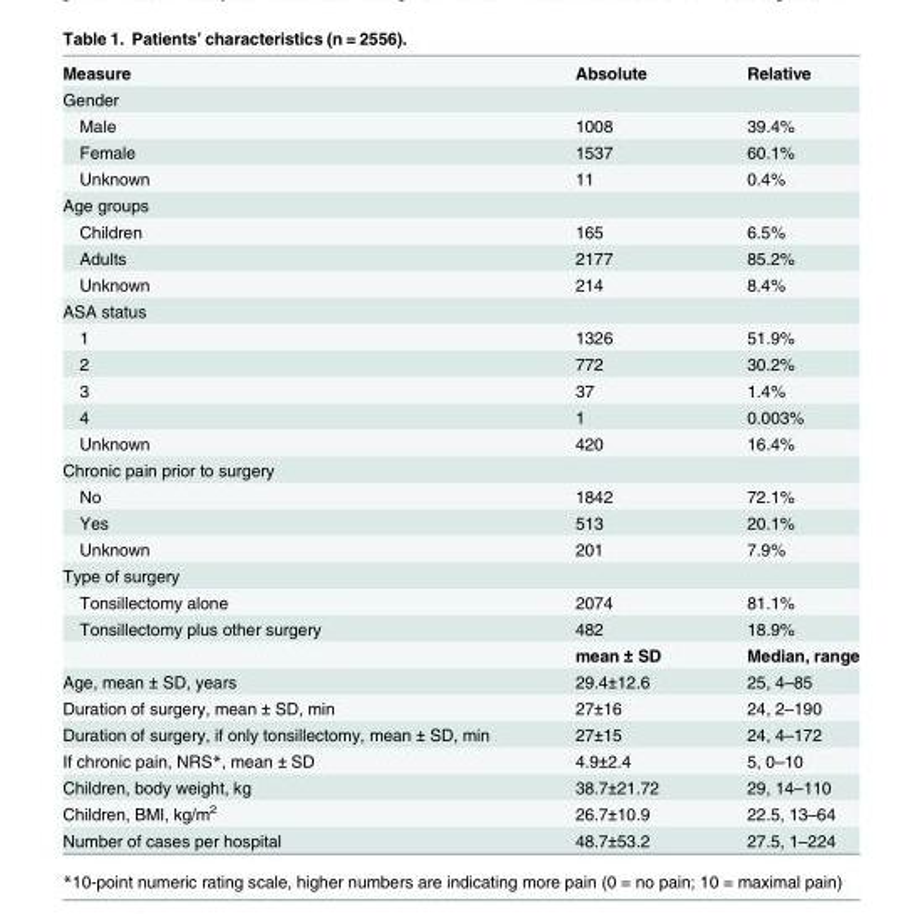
<table><tbody><tr><td>Measure</td><td>Absolute</td><td>Relative</td></tr><tr><td colspan="3">Gender</td></tr><tr><td>Male</td><td>1008</td><td>39.4%</td></tr><tr><td>Female</td><td>1537</td><td>60.1%</td></tr><tr><td>Unknown</td><td>11</td><td>0.4%</td></tr><tr><td colspan="3">Age groups</td></tr><tr><td>Children</td><td>165</td><td>6.5%</td></tr><tr><td>Adults</td><td>2177</td><td>85.2%</td></tr><tr><td>Unknown</td><td>214</td><td>8.4%</td></tr><tr><td colspan="3">ASA status</td></tr><tr><td>1</td><td>1326</td><td>51.9%</td></tr><tr><td>2</td><td>772</td><td>30.2%</td></tr><tr><td>3</td><td>37</td><td>1.4%</td></tr><tr><td>4</td><td>1</td><td>0.003%</td></tr><tr><td>Unknown</td><td>420</td><td>16.4%</td></tr><tr><td colspan="3">Chronic pain prior to surgery</td></tr><tr><td>No</td><td>1842</td><td>72.1%</td></tr><tr><td>Yes</td><td>513</td><td>20.1%</td></tr><tr><td>Unknown</td><td>201</td><td>7.9%</td></tr><tr><td colspan="3">Type of surgery</td></tr><tr><td>Tonsillectomy alone</td><td>2074</td><td>81.1%</td></tr><tr><td rowspan="2">Tonsillectomy plus other surgery</td><td>482</td><td>18.9%</td></tr><tr><td>mean ± SD</td><td>Median, range</td></tr><tr><td>Age, mean ± SD, years</td><td>29.4±12.6</td><td>25, 4–85</td></tr><tr><td>Duration of surgery, mean ± SD, min</td><td>27±16</td><td>24, 2–190</td></tr><tr><td>Duration of surgery, if only tonsillectomy, mean ± SD, min</td><td>27±15</td><td>24, 4–172</td></tr><tr><td>If chronic pain, NRS*, mean ± SD</td><td>4.9±2.4</td><td>5, 0–10</td></tr><tr><td>Children, body weight, kg</td><td>38.7±21.72</td><td>29, 14–110</td></tr><tr><td>Children, BMI, kg/m<sup>2</sup></td><td>26.7±10.9</td><td>22.5, 13–64</td></tr><tr><td>Number of cases per hospital</td><td>48.7±53.2</td><td>27.5, 1–224</td></tr></tbody></table>